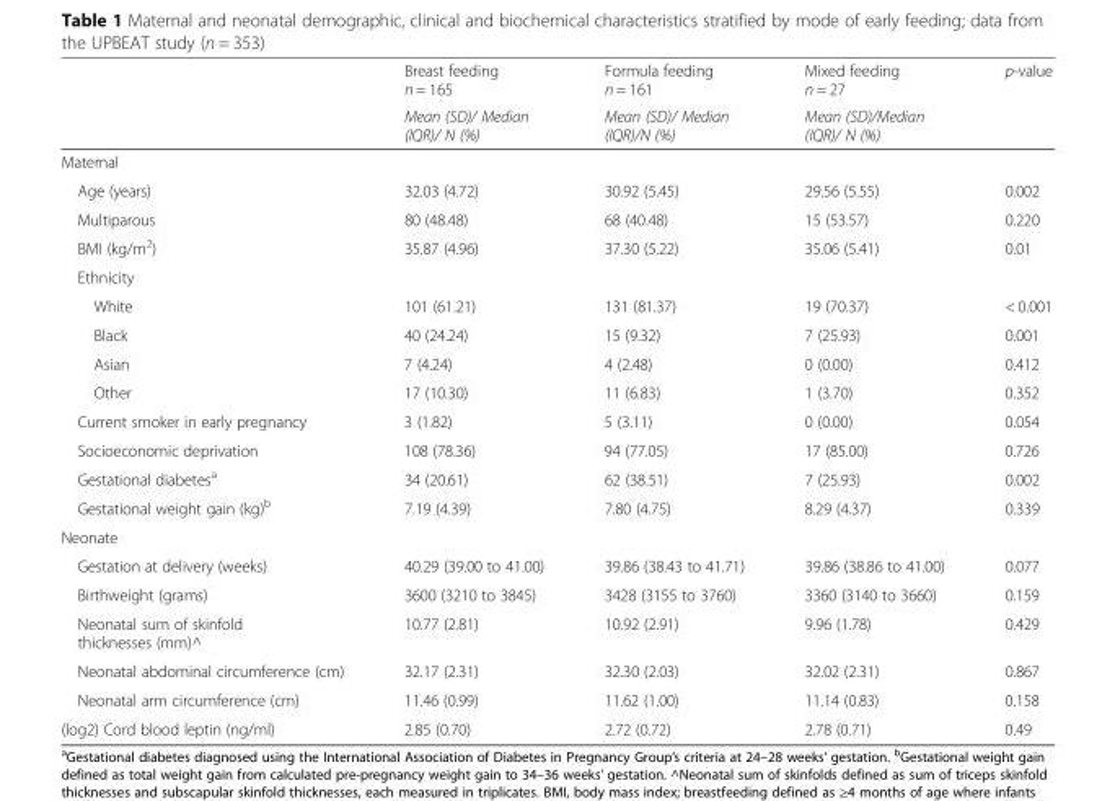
<table><thead><tr><td rowspan="2"></td><td rowspan="2">Breast feeding n = 165 Mean (SD)/ Median (IQR)/ N (%)</td><td rowspan="2">Formula feeding n = 161 Mean (SD)/ Median (IQR)/N (%)</td><td rowspan="2">Mixed feeding n = 27 Mean (SD)/Median (IQR)/ N (%)</td><td rowspan="2">p-value</td></tr><tr></tr></thead><tbody><tr><td colspan="5">Maternal</td></tr><tr><td>Age (years)</td><td>32.03 (4.72)</td><td>30.92 (5.45)</td><td>29.56 (5.55)</td><td>0.002</td></tr><tr><td>Multiparous</td><td>80 (48.48)</td><td>68 (40.48)</td><td>15 (53.57)</td><td>0.220</td></tr><tr><td>BMI (kg/m<sup>2</sup>)</td><td>35.87 (4.96)</td><td>37.30 (5.22)</td><td>35.06 (5.41)</td><td>0.01</td></tr><tr><td colspan="5">Ethnicity</td></tr><tr><td>White</td><td>101 (61.21)</td><td>131 (81.37)</td><td>19 (70.37)</td><td>&lt; 0.001</td></tr><tr><td>Black</td><td>40 (24.24)</td><td>15 (9.32)</td><td>7 (25.93)</td><td>0.001</td></tr><tr><td>Asian</td><td>7 (4.24)</td><td>4 (2.48)</td><td>0 (0.00)</td><td>0.412</td></tr><tr><td>Other</td><td>17 (10.30)</td><td>11 (6.83)</td><td>1 (3.70)</td><td>0.352</td></tr><tr><td>Current smoker in early pregnancy</td><td>3 (1.82)</td><td>5 (3.11)</td><td>0 (0.00)</td><td>0.054</td></tr><tr><td>Socioeconomic deprivation</td><td>108 (78.36)</td><td>94 (77.05)</td><td>17 (85.00)</td><td>0.726</td></tr><tr><td>Gestational diabetes<sup>a</sup></td><td>34 (20.61)</td><td>62 (38.51)</td><td>7 (25.93)</td><td>0.002</td></tr><tr><td>Gestational weight gain (kg)<sup>b</sup></td><td>7.19 (4.39)</td><td>7.80 (4.75)</td><td>8.29 (4.37)</td><td>0.339</td></tr><tr><td colspan="5">Neonate</td></tr><tr><td>Gestation at delivery (weeks)</td><td>40.29 (39.00 to 41.00)</td><td>39.86 (38.43 to 41.71)</td><td>39.86 (38.86 to 41.00)</td><td>0.077</td></tr><tr><td>Birthweight (grams)</td><td>3600 (3210 to 3845)</td><td>3428 (3155 to 3760)</td><td>3360 (3140 to 3660)</td><td>0.159</td></tr><tr><td>Neonatal sum of skinfold thicknesses (mm)^</td><td>10.77 (2.81)</td><td>10.92 (2.91)</td><td>9.96 (1.78)</td><td>0.429</td></tr><tr><td>Neonatal abdominal circumference (cm)</td><td>32.17 (2.31)</td><td>32.30 (2.03)</td><td>32.02 (2.31)</td><td>0.867</td></tr><tr><td>Neonatal arm circumference (cm)</td><td>11.46 (0.99)</td><td>11.62 (1.00)</td><td>11.14 (0.83)</td><td>0.158</td></tr><tr><td>(log2) Cord blood leptin (ng/ml)</td><td>2.85 (0.70)</td><td>2.72 (0.72)</td><td>2.78 (0.71)</td><td>0.49</td></tr></tbody></table>